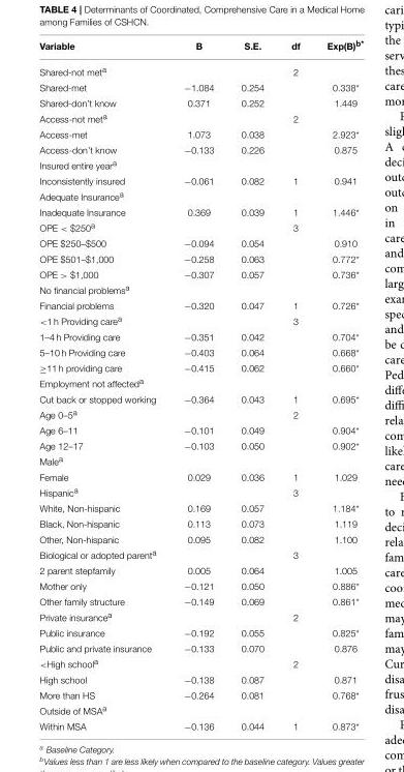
<table><thead><tr><td>Variable</td><td>B</td><td>S.E.</td><td>df</td><td>Exp(B)<sup>b*</sup></td></tr></thead><tbody><tr><td>Shared-not met<sup>a</sup></td><td></td><td></td><td>2</td><td></td></tr><tr><td>Shared-met</td><td>−1.084</td><td>0.254</td><td></td><td>0.338*</td></tr><tr><td>Shared-don’t know</td><td>0.371</td><td>0.252</td><td></td><td>1.449</td></tr><tr><td>Access-not met<sup>a</sup></td><td></td><td></td><td>2</td><td></td></tr><tr><td>Access-met</td><td>1.073</td><td>0.038</td><td></td><td>2.923*</td></tr><tr><td>Access-don’t know</td><td>−0.133</td><td>0.226</td><td></td><td>0.875</td></tr><tr><td colspan="5">Insured entire year<sup>a</sup></td></tr><tr><td>Inconsistently insured</td><td>−0.061</td><td>0.082</td><td>1</td><td>0.941</td></tr><tr><td colspan="5">Adequate Insurance<sup>a</sup></td></tr><tr><td>Inadequate Insurance</td><td>0.369</td><td>0.039</td><td>1</td><td>1.446*</td></tr><tr><td>OPE &lt; $250<sup>a</sup></td><td></td><td></td><td>3</td><td></td></tr><tr><td>OPE $250–$500</td><td>−0.094</td><td>0.054</td><td></td><td>0.910</td></tr><tr><td>OPE $501–$1,000</td><td>−0.258</td><td>0.063</td><td></td><td>0.772*</td></tr><tr><td>OPE &gt; $1,000</td><td>−0.307</td><td>0.057</td><td></td><td>0.736*</td></tr><tr><td colspan="5">No financial problems<sup>a</sup></td></tr><tr><td>Financial problems</td><td>−0.320</td><td>0.047</td><td>1</td><td>0.726*</td></tr><tr><td>&lt;1 h Providing care<sup>a</sup></td><td></td><td></td><td>3</td><td></td></tr><tr><td>1–4 h Providing care</td><td>−0.351</td><td>0.042</td><td></td><td>0.704*</td></tr><tr><td>5–10 h Providing care</td><td>−0.403</td><td>0.064</td><td></td><td>0.668*</td></tr><tr><td>≥11 h providing care</td><td>−0.415</td><td>0.062</td><td></td><td>0.660*</td></tr><tr><td colspan="5">Employment not affected<sup>a</sup></td></tr><tr><td>Cut back or stopped working</td><td>−0.364</td><td>0.043</td><td>1</td><td>0.695*</td></tr><tr><td>Age 0–5<sup>a</sup></td><td></td><td></td><td>2</td><td></td></tr><tr><td>Age 6–11</td><td>−0.101</td><td>0.049</td><td></td><td>0.904*</td></tr><tr><td>Age 12–17</td><td>−0.103</td><td>0.050</td><td></td><td>0.902*</td></tr><tr><td colspan="5">Male<sup>a</sup></td></tr><tr><td>Female</td><td>0.029</td><td>0.036</td><td>1</td><td>1.029</td></tr><tr><td>Hispanic<sup>a</sup></td><td></td><td></td><td>3</td><td></td></tr><tr><td>White, Non-hispanic</td><td>0.169</td><td>0.057</td><td></td><td>1.184*</td></tr><tr><td>Black, Non-hispanic</td><td>0.113</td><td>0.073</td><td></td><td>1.119</td></tr><tr><td>Other, Non-hispanic</td><td>0.095</td><td>0.082</td><td></td><td>1.100</td></tr><tr><td>Biological or adopted parent<sup>a</sup></td><td></td><td></td><td>3</td><td></td></tr><tr><td>2 parent stepfamily</td><td>0.005</td><td>0.064</td><td></td><td>1.005</td></tr><tr><td>Mother only</td><td>−0.121</td><td>0.050</td><td></td><td>0.886*</td></tr><tr><td>Other family structure</td><td>−0.149</td><td>0.069</td><td></td><td>0.861*</td></tr><tr><td>Private insurance<sup>a</sup></td><td></td><td></td><td>2</td><td></td></tr><tr><td>Public insurance</td><td>−0.192</td><td>0.055</td><td></td><td>0.825*</td></tr><tr><td>Public and private insurance</td><td>−0.133</td><td>0.070</td><td></td><td>0.876</td></tr><tr><td>&lt;High school<sup>a</sup></td><td></td><td></td><td>2</td><td></td></tr><tr><td>High school</td><td>−0.138</td><td>0.087</td><td></td><td>0.871</td></tr><tr><td>More than HS</td><td>−0.264</td><td>0.081</td><td></td><td>0.768*</td></tr><tr><td colspan="5">Outside of MSA<sup>a</sup></td></tr><tr><td>Within MSA</td><td>−0.136</td><td>0.044</td><td>1</td><td>0.873*</td></tr></tbody></table>